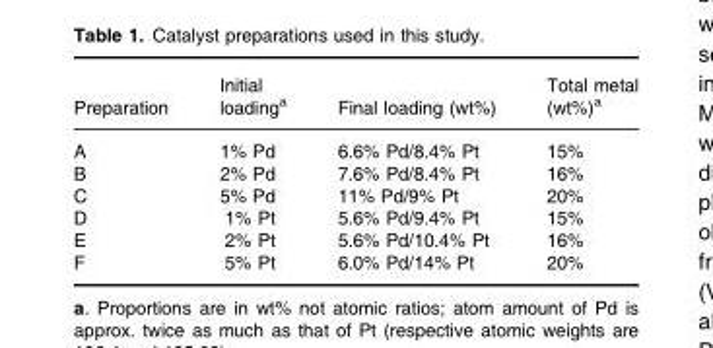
<table><thead><tr><td>Preparation</td><td>Initial loading<sup>a</sup></td><td>Final loading (wt%)</td><td>Total metal (wt%)<sup>a</sup></td></tr></thead><tbody><tr><td>A</td><td>1% Pd</td><td>6.6% Pd/8.4% Pt</td><td>15%</td></tr><tr><td>B</td><td>2% Pd</td><td>7.6% Pd/8.4% Pt</td><td>16%</td></tr><tr><td>C</td><td>5% Pd</td><td>11% Pd/9% Pt</td><td>20%</td></tr><tr><td>D</td><td>1% Pt</td><td>5.6% Pd/9.4% Pt</td><td>15%</td></tr><tr><td>E</td><td>2% Pt</td><td>5.6% Pd/10.4% Pt</td><td>16%</td></tr><tr><td>F</td><td>5% Pt</td><td>6.0% Pd/14% Pt</td><td>20%</td></tr></tbody></table>